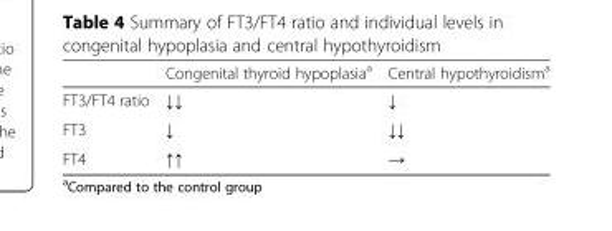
<table><thead><tr><td></td><td>Congenital thyroid hypoplasia<sup>a</sup></td><td>Central hypothyroidism<sup>a</sup></td></tr></thead><tbody><tr><td>FT3/FT4 ratio</td><td>↓↓</td><td>↓</td></tr><tr><td>FT3</td><td>↓</td><td>↓↓</td></tr><tr><td>FT4</td><td>↑↑</td><td>→</td></tr></tbody></table>